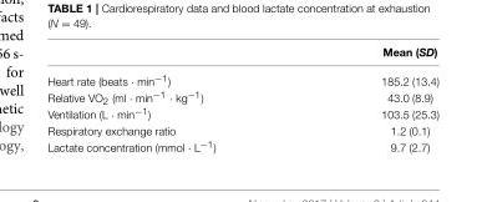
<table><thead><tr><td></td><td>Mean (SD)</td></tr></thead><tbody><tr><td>Heart rate (beats · min<sup>−1</sup>)</td><td>185.2 (13.4)</td></tr><tr><td>Relative VO<sub>2</sub> (ml · min<sup>−1</sup> · kg<sup>−1</sup>)</td><td>43.0 (8.9)</td></tr><tr><td>Ventilation (L · min<sup>−1</sup>)</td><td>103.5 (25.3)</td></tr><tr><td>Respiratory exchange ratio</td><td>1.2 (0.1)</td></tr><tr><td>Lactate concentration (mmol · L<sup>−1</sup>)</td><td>9.7 (2.7)</td></tr></tbody></table>